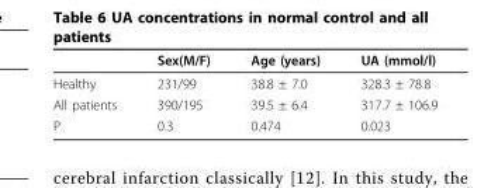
<table><thead><tr><td></td><td>Sex(M/F)</td><td>Age (years)</td><td>UA (mmol/l)</td></tr></thead><tbody><tr><td>Healthy</td><td>231/99</td><td>38.8 ± 7.0</td><td>328.3 ± 78.8</td></tr><tr><td>All patients</td><td>390/195</td><td>39.5 ± 6.4</td><td>317.7 ± 106.9</td></tr><tr><td>P</td><td>0.3</td><td>0.474</td><td>0.023</td></tr></tbody></table>